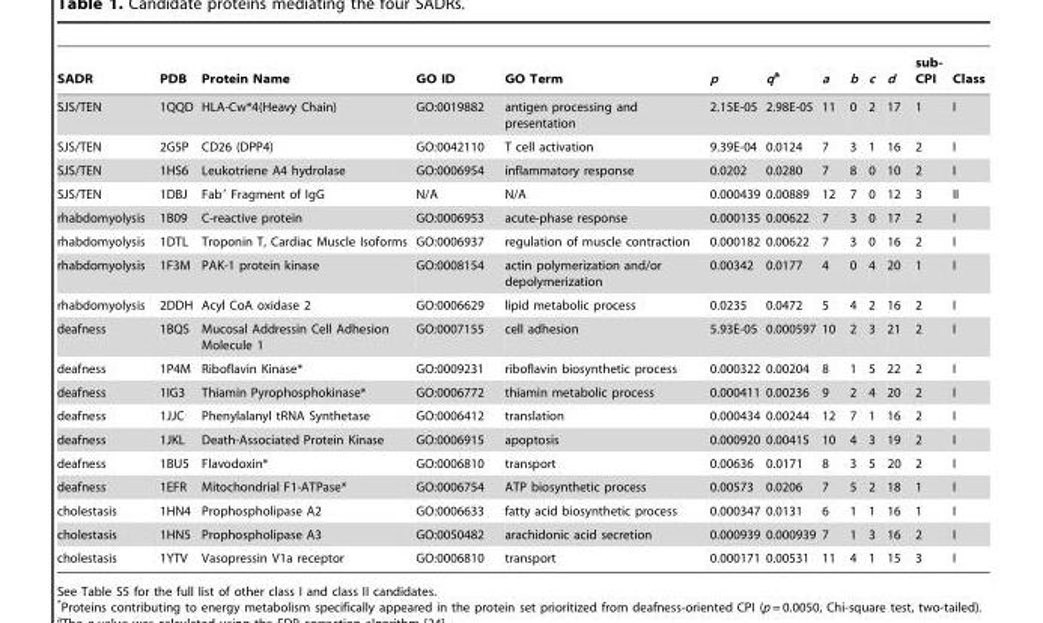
<table><thead><tr><td>SADR</td><td>PDB</td><td>Protein Name</td><td>GO ID</td><td>GO Term</td><td>p</td><td>qa</td><td>a</td><td>b</td><td>c</td><td>d</td><td>sub- CPI</td><td>Class</td></tr></thead><tbody><tr><td>SJS/TEN</td><td>1QQD</td><td>HLA-Cw*4(Heavy Chain)</td><td>GO:0019882</td><td>antigen processing and presentation</td><td>2.15E-05</td><td>2.98E-05</td><td>11</td><td>0</td><td>2</td><td>17</td><td>1</td><td>I</td></tr><tr><td>SJS/TEN</td><td>2G5P</td><td>CD26 (DPP4)</td><td>GO:0042110</td><td>T cell activation</td><td>9.39E-04</td><td>0.0124</td><td>7</td><td>3</td><td>1</td><td>16</td><td>2</td><td>I</td></tr><tr><td>SJS/TEN</td><td>1HS6</td><td>Leukotriene A4 hydrolase</td><td>GO:0006954</td><td>inflammatory response</td><td>0.0202</td><td>0.0280</td><td>7</td><td>8</td><td>0</td><td>10</td><td>2</td><td>I</td></tr><tr><td>SJS/TEN</td><td>1DBJ</td><td>Fab′ Fragment of IgG</td><td>N/A</td><td>N/A</td><td>0.000439</td><td>0.00889</td><td>12</td><td>7</td><td>0</td><td>12</td><td>3</td><td>II</td></tr><tr><td>rhabdomyolysis</td><td>1B09</td><td>C-reactive protein</td><td>GO:0006953</td><td>acute-phase response</td><td>0.000135</td><td>0.00622</td><td>7</td><td>3</td><td>0</td><td>17</td><td>2</td><td>I</td></tr><tr><td>rhabdomyolysis</td><td>1DTL</td><td>Troponin T, Cardiac Muscle Isoforms</td><td>GO:0006937</td><td>regulation of muscle contraction</td><td>0.000182</td><td>0.00622</td><td>7</td><td>3</td><td>0</td><td>16</td><td>2</td><td>I</td></tr><tr><td>rhabdomyolysis</td><td>1F3M</td><td>PAK-1 protein kinase</td><td>GO:0008154</td><td>actin polymerization and/or depolymerization</td><td>0.00342</td><td>0.0177</td><td>4</td><td>0</td><td>4</td><td>20</td><td>1</td><td>I</td></tr><tr><td>rhabdomyolysis</td><td>2DDH</td><td>Acyl CoA oxidase 2</td><td>GO:0006629</td><td>lipid metabolic process</td><td>0.0235</td><td>0.0472</td><td>5</td><td>4</td><td>2</td><td>16</td><td>2</td><td>I</td></tr><tr><td>deafness</td><td>1BQS</td><td>Mucosal Addressin Cell Adhesion Molecule 1</td><td>GO:0007155</td><td>cell adhesion</td><td>5.93E-05</td><td>0.000597</td><td>10</td><td>2</td><td>3</td><td>21</td><td>2</td><td>I</td></tr><tr><td>deafness</td><td>1P4M</td><td>Riboflavin Kinase*</td><td>GO:0009231</td><td>riboflavin biosynthetic process</td><td>0.000322</td><td>0.00204</td><td>8</td><td>1</td><td>5</td><td>22</td><td>2</td><td>I</td></tr><tr><td>deafness</td><td>1IG3</td><td>Thiamin Pyrophosphokinase*</td><td>GO:0006772</td><td>thiamin metabolic process</td><td>0.000411</td><td>0.00236</td><td>9</td><td>2</td><td>4</td><td>20</td><td>2</td><td>I</td></tr><tr><td>deafness</td><td>1JJC</td><td>Phenylalanyl tRNA Synthetase</td><td>GO:0006412</td><td>translation</td><td>0.000434</td><td>0.00244</td><td>12</td><td>7</td><td>1</td><td>16</td><td>2</td><td>I</td></tr><tr><td>deafness</td><td>1JKL</td><td>Death-Associated Protein Kinase</td><td>GO:0006915</td><td>apoptosis</td><td>0.000920</td><td>0.00415</td><td>10</td><td>4</td><td>3</td><td>19</td><td>2</td><td>I</td></tr><tr><td>deafness</td><td>1BU5</td><td>Flavodoxin*</td><td>GO:0006810</td><td>transport</td><td>0.00636</td><td>0.0171</td><td>8</td><td>3</td><td>5</td><td>20</td><td>2</td><td>I</td></tr><tr><td>deafness</td><td>1EFR</td><td>Mitochondrial F1-ATPase*</td><td>GO:0006754</td><td>ATP biosynthetic process</td><td>0.00573</td><td>0.0206</td><td>7</td><td>5</td><td>2</td><td>18</td><td>1</td><td>I</td></tr><tr><td>cholestasis</td><td>1HN4</td><td>Prophospholipase A2</td><td>GO:0006633</td><td>fatty acid biosynthetic process</td><td>0.000347</td><td>0.0131</td><td>6</td><td>1</td><td>1</td><td>16</td><td>1</td><td>I</td></tr><tr><td>cholestasis</td><td>1HN5</td><td>Prophospholipase A3</td><td>GO:0050482</td><td>arachidonic acid secretion</td><td>0.000939</td><td>0.000939</td><td>7</td><td>1</td><td>3</td><td>16</td><td>2</td><td>I</td></tr><tr><td>cholestasis</td><td>1YTV</td><td>Vasopressin V1a receptor</td><td>GO:0006810</td><td>transport</td><td>0.000171</td><td>0.00531</td><td>11</td><td>4</td><td>1</td><td>15</td><td>3</td><td>I</td></tr></tbody></table>